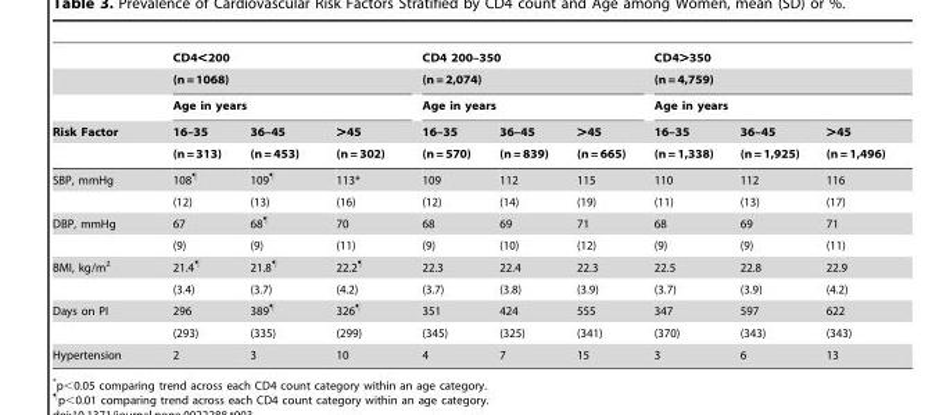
<table><thead><tr><td rowspan="5">Risk Factor</td><td rowspan="3" colspan="3">CD4&lt;200 (n = 1068) Age in years</td><td rowspan="3" colspan="3">CD4 200–350 (n = 2,074) Age in years</td><td rowspan="3" colspan="3">CD4&gt;350 (n = 4,759) Age in years</td></tr><tr></tr><tr></tr><tr><td rowspan="2">16–35 (n = 313)</td><td rowspan="2">36–45 (n = 453)</td><td rowspan="2">&gt;45 (n = 302)</td><td rowspan="2">16–35 (n = 570)</td><td rowspan="2">36–45 (n = 839)</td><td rowspan="2">&gt;45 (n = 665)</td><td rowspan="2">16–35 (n = 1,338)</td><td rowspan="2">36–45 (n = 1,925)</td><td rowspan="2">&gt;45 (n = 1,496)</td></tr><tr></tr></thead><tbody><tr><td rowspan="2">SBP, mmHg</td><td>108¶</td><td>109¶</td><td>113*</td><td>109</td><td>112</td><td>115</td><td>110</td><td>112</td><td>116</td></tr><tr><td>(12)</td><td>(13)</td><td>(16)</td><td>(12)</td><td>(14)</td><td>(19)</td><td>(11)</td><td>(13)</td><td>(17)</td></tr><tr><td rowspan="2">DBP, mmHg</td><td>67</td><td>68¶</td><td>70</td><td>68</td><td>69</td><td>71</td><td>68</td><td>69</td><td>71</td></tr><tr><td>(9)</td><td>(9)</td><td>(11)</td><td>(9)</td><td>(10)</td><td>(12)</td><td>(9)</td><td>(9)</td><td>(11)</td></tr><tr><td rowspan="2">BMI, kg/m<sup>2</sup></td><td>21.4¶</td><td>21.8¶</td><td>22.2¶</td><td>22.3</td><td>22.4</td><td>22.3</td><td>22.5</td><td>22.8</td><td>22.9</td></tr><tr><td>(3.4)</td><td>(3.7)</td><td>(4.2)</td><td>(3.7)</td><td>(3.8)</td><td>(3.9)</td><td>(3.7)</td><td>(3.9)</td><td>(4.2)</td></tr><tr><td rowspan="2">Days on PI</td><td>296</td><td>389¶</td><td>326¶</td><td>351</td><td>424</td><td>555</td><td>347</td><td>597</td><td>622</td></tr><tr><td>(293)</td><td>(335)</td><td>(299)</td><td>(345)</td><td>(325)</td><td>(341)</td><td>(370)</td><td>(343)</td><td>(343)</td></tr><tr><td>Hypertension</td><td>2</td><td>3</td><td>10</td><td>4</td><td>7</td><td>15</td><td>3</td><td>6</td><td>13</td></tr></tbody></table>